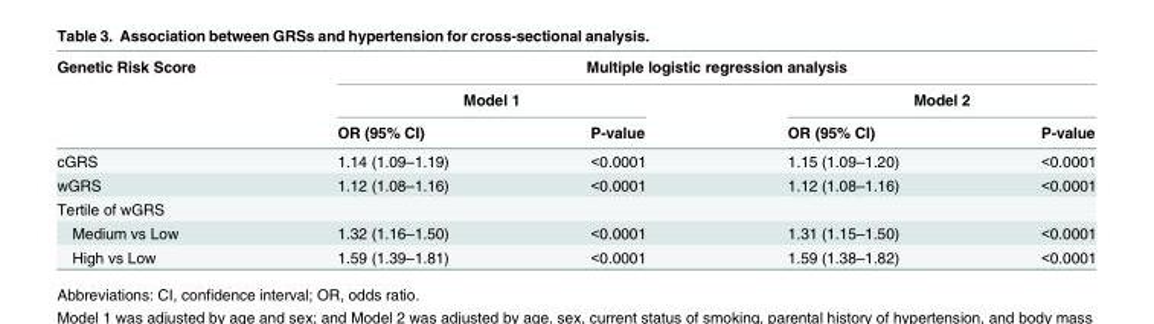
<table><thead><tr><td rowspan="3">Genetic Risk Score</td><td colspan="4">Multiple logistic regression analysis</td></tr><tr><td colspan="2">Model 1</td><td colspan="2">Model 2</td></tr><tr><td>OR (95% CI)</td><td>P-value</td><td>OR (95% CI)</td><td>P-value</td></tr></thead><tbody><tr><td>cGRS</td><td>1.14 (1.09–1.19)</td><td>&lt;0.0001</td><td>1.15 (1.09–1.20)</td><td>&lt;0.0001</td></tr><tr><td>wGRS</td><td>1.12 (1.08–1.16)</td><td>&lt;0.0001</td><td>1.12 (1.08–1.16)</td><td>&lt;0.0001</td></tr><tr><td colspan="5">Tertile of wGRS</td></tr><tr><td>Medium vs Low</td><td>1.32 (1.16–1.50)</td><td>&lt;0.0001</td><td>1.31 (1.15–1.50)</td><td>&lt;0.0001</td></tr><tr><td>High vs Low</td><td>1.59 (1.39–1.81)</td><td>&lt;0.0001</td><td>1.59 (1.38–1.82)</td><td>&lt;0.0001</td></tr></tbody></table>